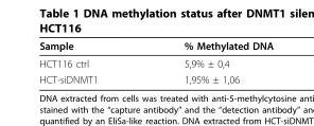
<table><thead><tr><td>Sample</td><td>% Methylated DNA</td></tr></thead><tbody><tr><td>HCT116 ctrl</td><td>5,9% ± 0,4</td></tr><tr><td>HCT-siDNMT1</td><td>1,95% ± 1,06</td></tr></tbody></table>